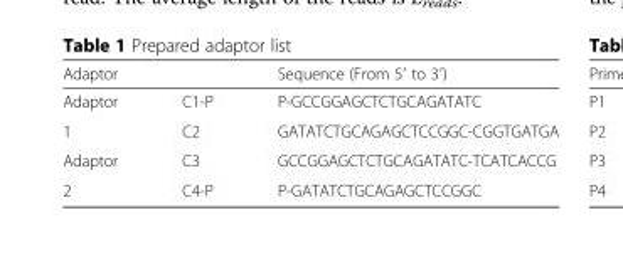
<table><thead><tr><td colspan="2">Adaptor</td><td rowspan="2">Sequence (From 5′ to 3′) P-GCCGGAGCTCTGCAGATATC</td></tr><tr><td>Adaptor</td><td>C1-P</td></tr></thead><tbody><tr><td>1</td><td>C2</td><td>GATATCTGCAGAGCTCCGGC-CGGTGATGA</td></tr><tr><td>Adaptor</td><td>C3</td><td>GCCGGAGCTCTGCAGATATC-TCATCACCG</td></tr><tr><td>2</td><td>C4-P</td><td>P-GATATCTGCAGAGCTCCGGC</td></tr></tbody></table>